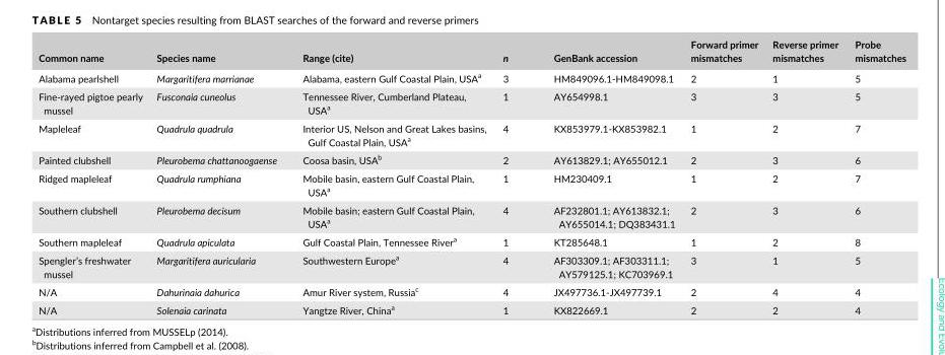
<table><thead><tr><td>Common name</td><td>Species name</td><td>Range (cite)</td><td>n</td><td>GenBank accession</td><td>Forward primer mismatches</td><td>Reverse primer mismatches</td><td>Probe mismatches</td></tr></thead><tbody><tr><td>Alabama pearlshell</td><td>Margaritifera marrianae</td><td>Alabama, eastern Gulf Coastal Plain, USA<sup>a</sup></td><td>3</td><td>HM849096.1- HM849098.1</td><td>2</td><td>1</td><td>5</td></tr><tr><td>Fine- rayed pigtoe pearly mussel</td><td>Fusconaia cuneolus</td><td>Tennessee River, Cumberland Plateau, USA<sup>a</sup></td><td>1</td><td>AY654998.1</td><td>3</td><td>3</td><td>5</td></tr><tr><td>Mapleleaf</td><td>Quadrula quadrula</td><td>Interior US, Nelson and Great Lakes basins, Gulf Coastal Plain, USA<sup>a</sup></td><td>4</td><td>KX853979.1- KX853982.1</td><td>1</td><td>2</td><td>7</td></tr><tr><td>Painted clubshell</td><td>Pleurobema chattanoogaense</td><td>Coosa basin, USA<sup>b</sup></td><td>2</td><td>AY613829.1; AY655012.1</td><td>2</td><td>3</td><td>6</td></tr><tr><td>Ridged mapleleaf</td><td>Quadrula rumphiana</td><td>Mobile basin, eastern Gulf Coastal Plain, USA<sup>a</sup></td><td>1</td><td>HM230409.1</td><td>1</td><td>2</td><td>7</td></tr><tr><td>Southern clubshell</td><td>Pleurobema decisum</td><td>Mobile basin; eastern Gulf Coastal Plain, USA<sup>a</sup></td><td>4</td><td>AF232801.1; AY613832.1; AY655014.1; DQ383431.1</td><td>2</td><td>3</td><td>6</td></tr><tr><td>Southern mapleleaf</td><td>Quadrula apiculata</td><td>Gulf Coastal Plain, Tennessee River<sup>a</sup></td><td>1</td><td>KT285648.1</td><td>1</td><td>2</td><td>8</td></tr><tr><td>Spengler’s freshwater mussel</td><td>Margaritifera auricularia</td><td>Southwestern Europe<sup>a</sup></td><td>4</td><td>AF303309.1; AF303311.1; AY579125.1; KC703969.1</td><td>3</td><td>1</td><td>5</td></tr><tr><td>N/A</td><td>Dahurinaia dahurica</td><td>Amur River system, Russia<sup>c</sup></td><td>4</td><td>JX497736.1- JX497739.1</td><td>2</td><td>4</td><td>4</td></tr><tr><td>N/A</td><td>Solenaia carinata</td><td>Yangtze River, China<sup>a</sup></td><td>1</td><td>KX822669.1</td><td>2</td><td>2</td><td>4</td></tr></tbody></table>